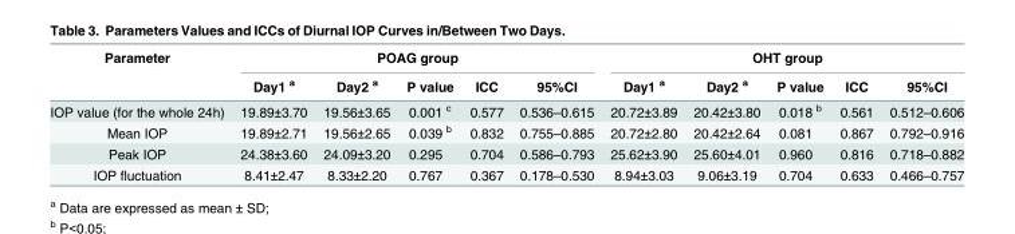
<table><thead><tr><td rowspan="2">Parameter</td><td colspan="5">POAG group</td><td colspan="5">OHT group</td></tr><tr><td>Day1 <sup>a</sup></td><td>Day2 <sup>a</sup></td><td>P value</td><td>ICC</td><td>95%CI</td><td>Day1 <sup>a</sup></td><td>Day2 <sup>a</sup></td><td>P value</td><td>ICC</td><td>95%CI</td></tr></thead><tbody><tr><td>IOP value (for the whole 24h)</td><td>19.89±3.70</td><td>19.56±3.65</td><td>0.001 <sup>c</sup></td><td>0.577</td><td>0.536–0.615</td><td>20.72±3.89</td><td>20.42±3.80</td><td>0.018 <sup>b</sup></td><td>0.561</td><td>0.512–0.606</td></tr><tr><td>Mean IOP</td><td>19.89±2.71</td><td>19.56±2.65</td><td>0.039 <sup>b</sup></td><td>0.832</td><td>0.755–0.885</td><td>20.72±2.80</td><td>20.42±2.64</td><td>0.081</td><td>0.867</td><td>0.792–0.916</td></tr><tr><td>Peak IOP</td><td>24.38±3.60</td><td>24.09±3.20</td><td>0.295</td><td>0.704</td><td>0.586–0.793</td><td>25.62±3.90</td><td>25.60±4.01</td><td>0.960</td><td>0.816</td><td>0.718–0.882</td></tr><tr><td>IOP fluctuation</td><td>8.41±2.47</td><td>8.33±2.20</td><td>0.767</td><td>0.367</td><td>0.178–0.530</td><td>8.94±3.03</td><td>9.06±3.19</td><td>0.704</td><td>0.633</td><td>0.466–0.757</td></tr></tbody></table>